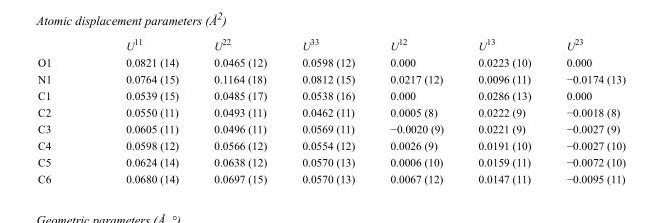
<table><thead><tr><td></td><td>U<sup>11</sup></td><td>U<sup>22</sup></td><td>U<sup>33</sup></td><td>U<sup>12</sup></td><td>U<sup>13</sup></td><td>U<sup>23</sup></td></tr></thead><tbody><tr><td>O1</td><td>0.0821 (14)</td><td>0.0465 (12)</td><td>0.0598 (12)</td><td>0.000</td><td>0.0223 (10)</td><td>0.000</td></tr><tr><td>N1</td><td>0.0764 (15)</td><td>0.1164 (18)</td><td>0.0812 (15)</td><td>0.0217 (12)</td><td>0.0096 (11)</td><td>−0.0174 (13)</td></tr><tr><td>C1</td><td>0.0539 (15)</td><td>0.0485 (17)</td><td>0.0538 (16)</td><td>0.000</td><td>0.0286 (13)</td><td>0.000</td></tr><tr><td>C2</td><td>0.0550 (11)</td><td>0.0493 (11)</td><td>0.0462 (11)</td><td>0.0005 (8)</td><td>0.0222 (9)</td><td>−0.0018 (8)</td></tr><tr><td>C3</td><td>0.0605 (11)</td><td>0.0496 (11)</td><td>0.0569 (11)</td><td>−0.0020 (9)</td><td>0.0221 (9)</td><td>−0.0027 (9)</td></tr><tr><td>C4</td><td>0.0598 (12)</td><td>0.0566 (12)</td><td>0.0554 (12)</td><td>0.0026 (9)</td><td>0.0191 (10)</td><td>−0.0027 (10)</td></tr><tr><td>C5</td><td>0.0624 (14)</td><td>0.0638 (12)</td><td>0.0570 (13)</td><td>0.0006 (10)</td><td>0.0159 (11)</td><td>−0.0072 (10)</td></tr><tr><td>C6</td><td>0.0680 (14)</td><td>0.0697 (15)</td><td>0.0570 (13)</td><td>0.0067 (12)</td><td>0.0147 (11)</td><td>−0.0095 (11)</td></tr></tbody></table>